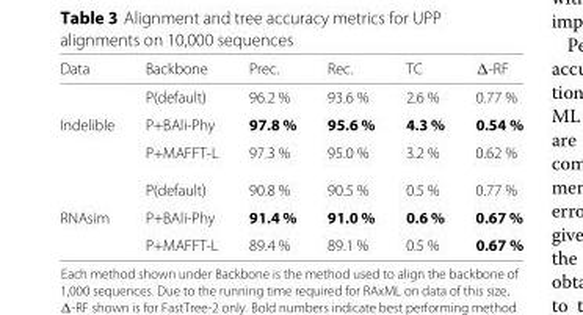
<table><thead><tr><td>Data</td><td>Backbone</td><td>Prec.</td><td>Rec.</td><td>TC</td><td>Δ-RF</td></tr></thead><tbody><tr><td></td><td>P(default)</td><td>96.2 %</td><td>93.6 %</td><td>2.6 %</td><td>0.77 %</td></tr><tr><td rowspan="3">Indelible</td><td>P+BAli-Phy</td><td>97.8 %</td><td>95.6 %</td><td>4.3 %</td><td>0.54 %</td></tr><tr><td>P+MAFFT-L</td><td>97.3 %</td><td>95.0 %</td><td>3.2 %</td><td>0.62 %</td></tr><tr><td>P(default)</td><td>90.8 %</td><td>90.5 %</td><td>0.5 %</td><td>0.77 %</td></tr><tr><td rowspan="2">RNAsim</td><td>P+BAli-Phy</td><td>91.4 %</td><td>91.0 %</td><td>0.6 %</td><td>0.67 %</td></tr><tr><td>P+MAFFT-L</td><td>89.4 %</td><td>89.1 %</td><td>0.5 %</td><td>0.67 %</td></tr></tbody></table>